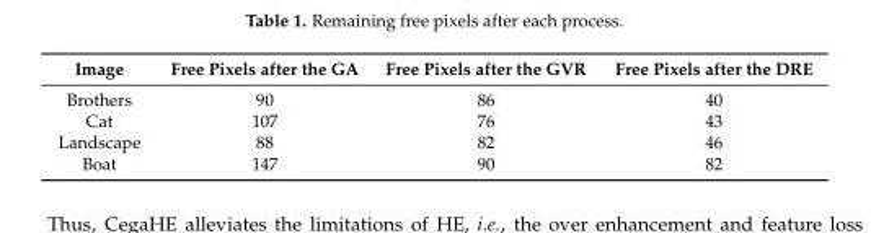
<table><thead><tr><td>Image</td><td>Free Pixels after the GA</td><td>Free Pixels after the GVR</td><td>Free Pixels after the DRE</td></tr></thead><tbody><tr><td>Brothers</td><td>90</td><td>86</td><td>40</td></tr><tr><td>Cat</td><td>107</td><td>76</td><td>43</td></tr><tr><td>Landscape</td><td>88</td><td>82</td><td>46</td></tr><tr><td>Boat</td><td>147</td><td>90</td><td>82</td></tr></tbody></table>